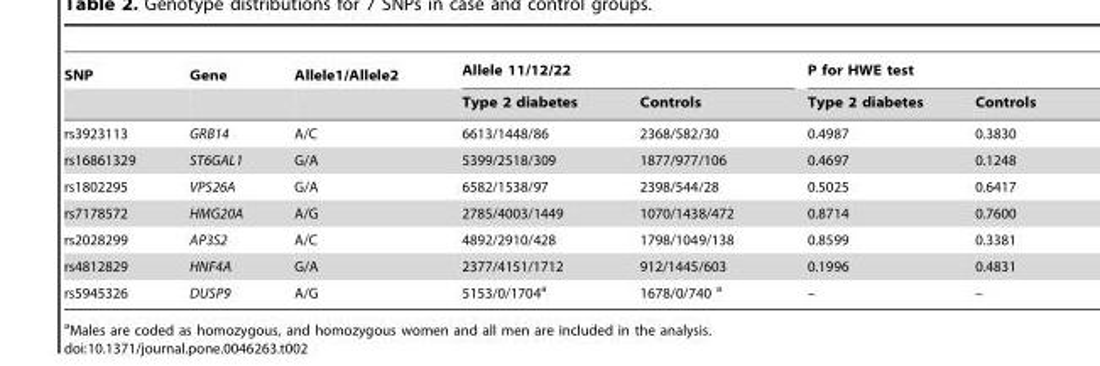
<table><thead><tr><td rowspan="2">SNP</td><td rowspan="2">Gene</td><td rowspan="2">Allele1/Allele2</td><td colspan="2">Allele 11/12/22</td><td colspan="2">P for HWE test</td></tr><tr><td>Type 2 diabetes</td><td>Controls</td><td>Type 2 diabetes</td><td>Controls</td></tr></thead><tbody><tr><td>rs3923113</td><td>GRB14</td><td>A/C</td><td>6613/1448/86</td><td>2368/582/30</td><td>0.4987</td><td>0.3830</td></tr><tr><td>rs16861329</td><td>ST6GAL1</td><td>G/A</td><td>5399/2518/309</td><td>1877/977/106</td><td>0.4697</td><td>0.1248</td></tr><tr><td>rs1802295</td><td>VPS26A</td><td>G/A</td><td>6582/1538/97</td><td>2398/544/28</td><td>0.5025</td><td>0.6417</td></tr><tr><td>rs7178572</td><td>HMG20A</td><td>A/G</td><td>2785/4003/1449</td><td>1070/1438/472</td><td>0.8714</td><td>0.7600</td></tr><tr><td>rs2028299</td><td>AP3S2</td><td>A/C</td><td>4892/2910/428</td><td>1798/1049/138</td><td>0.8599</td><td>0.3381</td></tr><tr><td>rs4812829</td><td>HNF4A</td><td>G/A</td><td>2377/4151/1712</td><td>912/1445/603</td><td>0.1996</td><td>0.4831</td></tr><tr><td>rs5945326</td><td>DUSP9</td><td>A/G</td><td>5153/0/1704<sup>a</sup></td><td>1678/0/740 a</td><td>–</td><td>–</td></tr></tbody></table>